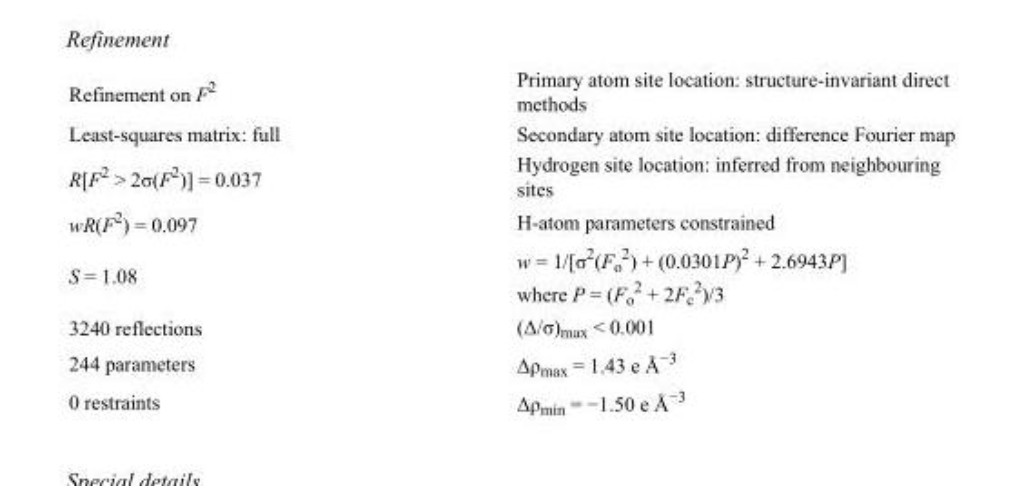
<table><tbody><tr><td>Refinement on F<sup>2</sup></td><td>Primary atom site location: structure-invariant direct methods</td></tr><tr><td>Least-squares matrix: full</td><td>Secondary atom site location: difference Fourier map</td></tr><tr><td>R[F<sup>2</sup> &gt; 2σ(F<sup>2</sup>)] = 0.037</td><td>Hydrogen site location: inferred from neighbouring sites</td></tr><tr><td>wR(F<sup>2</sup>) = 0.097</td><td>H-atom parameters constrained</td></tr><tr><td>S = 1.08</td><td>w = 1/[σ<sup>2</sup>(F<sub>o</sub> <sup>2</sup>) + (0.0301P)<sup>2</sup> + 2.6943P] where P = (F<sub>o</sub> <sup>2</sup> + 2F<sub>c</sub> <sup>2</sup>)/3</td></tr><tr><td>3240 reflections</td><td>(Δ/σ)<sub>max</sub> &lt; 0.001</td></tr><tr><td>244 parameters</td><td>Δρ<sub>max</sub> = 1.43 e Å<sup>−3</sup></td></tr><tr><td>0 restraints</td><td>Δρ<sub>min</sub> = −1.50 e Å<sup>−3</sup></td></tr></tbody></table>